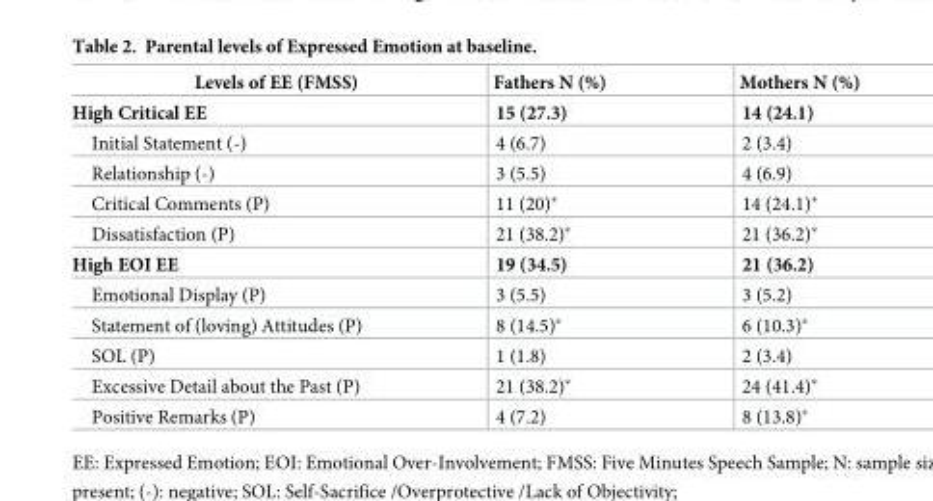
<table><thead><tr><td>Levels of EE (FMSS)</td><td>Fathers N (%)</td><td>Mothers N (%)</td></tr></thead><tbody><tr><td>High Critical EE</td><td>15 (27.3)</td><td>14 (24.1)</td></tr><tr><td>Initial Statement (-)</td><td>4 (6.7)</td><td>2 (3.4)</td></tr><tr><td>Relationship (-)</td><td>3 (5.5)</td><td>4 (6.9)</td></tr><tr><td>Critical Comments (P)</td><td>11 (20)*</td><td>14 (24.1)*</td></tr><tr><td>Dissatisfaction (P)</td><td>21 (38.2)*</td><td>21 (36.2)*</td></tr><tr><td>High EOI EE</td><td>19 (34.5)</td><td>21 (36.2)</td></tr><tr><td>Emotional Display (P)</td><td>3 (5.5)</td><td>3 (5.2)</td></tr><tr><td>Statement of (loving) Attitudes (P)</td><td>8 (14.5)*</td><td>6 (10.3)*</td></tr><tr><td>SOL (P)</td><td>1 (1.8)</td><td>2 (3.4)</td></tr><tr><td>Excessive Detail about the Past (P)</td><td>21 (38.2)*</td><td>24 (41.4)*</td></tr><tr><td>Positive Remarks (P)</td><td>4 (7.2)</td><td>8 (13.8)*</td></tr></tbody></table>